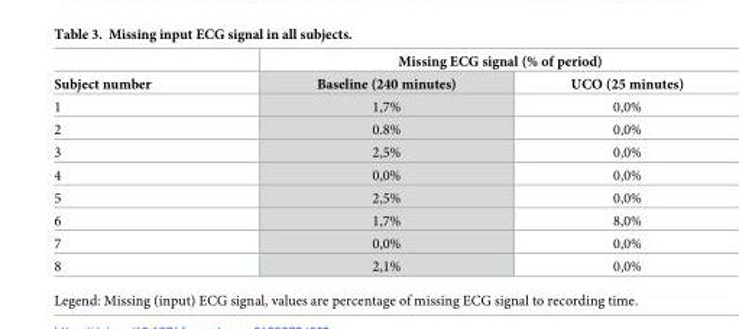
<table><thead><tr><td rowspan="2">Subject number</td><td colspan="2">Missing ECG signal (% of period)</td></tr><tr><td>Baseline (240 minutes)</td><td>UCO (25 minutes)</td></tr></thead><tbody><tr><td>1</td><td>1,7%</td><td>0,0%</td></tr><tr><td>2</td><td>0.8%</td><td>0,0%</td></tr><tr><td>3</td><td>2,5%</td><td>0,0%</td></tr><tr><td>4</td><td>0,0%</td><td>0,0%</td></tr><tr><td>5</td><td>2,5%</td><td>0,0%</td></tr><tr><td>6</td><td>1,7%</td><td>8,0%</td></tr><tr><td>7</td><td>0,0%</td><td>0,0%</td></tr><tr><td>8</td><td>2,1%</td><td>0,0%</td></tr></tbody></table>